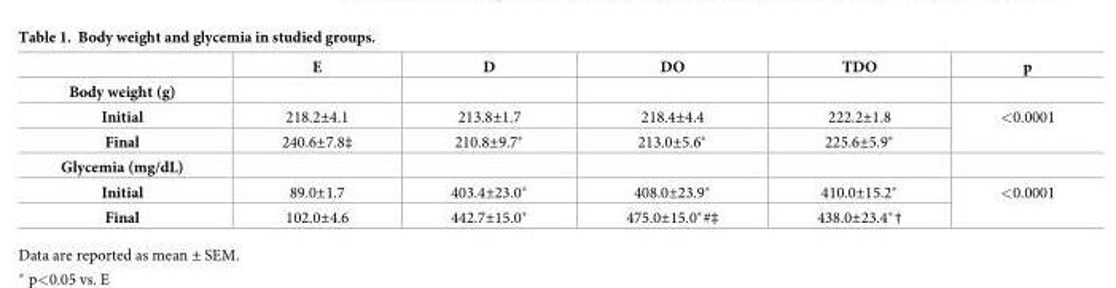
<table><thead><tr><td></td><td>E</td><td>D</td><td>DO</td><td>TDO</td><td>p</td></tr></thead><tbody><tr><td colspan="6">Body weight (g)</td></tr><tr><td>Initial</td><td>218.2±4.1</td><td>213.8±1.7</td><td>218.4±4.4</td><td>222.2±1.8</td><td rowspan="2">&lt;0.0001</td></tr><tr><td>Final</td><td>240.6±7.8‡</td><td>210.8±9.7*</td><td>213.0±5.6*</td><td>225.6±5.9*</td></tr><tr><td colspan="6">Glycemia (mg/dL)</td></tr><tr><td>Initial</td><td>89.0±1.7</td><td>403.4±23.0*</td><td>408.0±23.9*</td><td>410.0±15.2*</td><td rowspan="2">&lt;0.0001</td></tr><tr><td>Final</td><td>102.0±4.6</td><td>442.7±15.0*</td><td>475.0±15.0*#‡</td><td>438.0±23.4*†</td></tr></tbody></table>